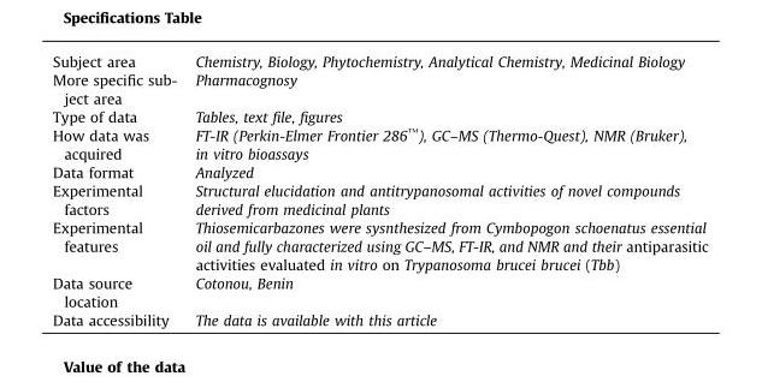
<table><tbody><tr><td>Subject area</td><td>Chemistry, Biology, Phytochemistry, Analytical Chemistry, Medicinal Biology</td></tr><tr><td>More specific sub- ject area</td><td>Pharmacognosy</td></tr><tr><td>Type of data</td><td>Tables, text file, figures</td></tr><tr><td>How data was acquired</td><td>FT-IR (Perkin-Elmer Frontier 286<sup>™</sup>), GC–MS (Thermo-Quest), NMR (Bruker), in vitro bioassays</td></tr><tr><td>Data format</td><td>Analyzed</td></tr><tr><td>Experimental factors</td><td>Structural elucidation and antitrypanosomal activities of novel compounds derived from medicinal plants</td></tr><tr><td>Experimental features</td><td>Thiosemicarbazones were sysnthesized from Cymbopogon schoenatus essential oil and fully characterized using GC–MS, FT-IR, and NMR and their antiparasitic activities evaluated in vitro on Trypanosoma brucei brucei (Tbb)</td></tr><tr><td>Data source location</td><td>Cotonou, Benin</td></tr><tr><td>Data accessibility</td><td>The data is available with this article</td></tr></tbody></table>